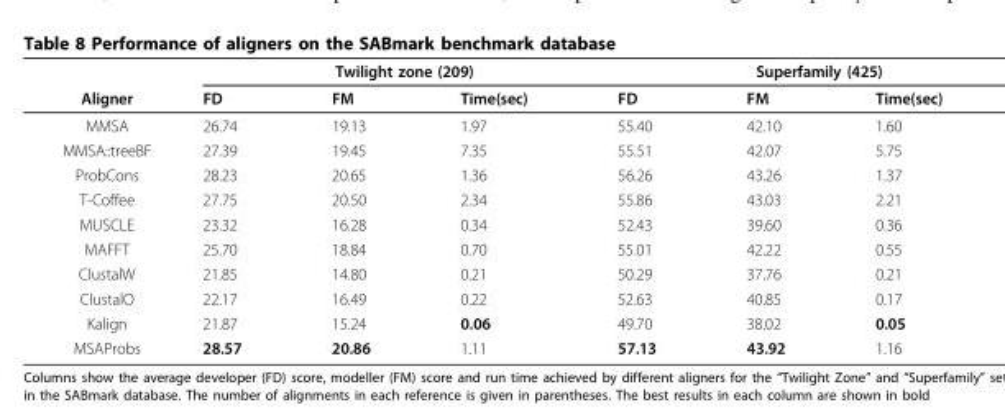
<table><thead><tr><td rowspan="2">Aligner</td><td colspan="3">Twilight zone (209)</td><td colspan="3">Superfamily (425)</td></tr><tr><td>FD</td><td>FM</td><td>Time(sec)</td><td>FD</td><td>FM</td><td>Time(sec)</td></tr></thead><tbody><tr><td>MMSA</td><td>26.74</td><td>19.13</td><td>1.97</td><td>55.40</td><td>42.10</td><td>1.60</td></tr><tr><td>MMSA::treeBF</td><td>27.39</td><td>19.45</td><td>7.35</td><td>55.51</td><td>42.07</td><td>5.75</td></tr><tr><td>ProbCons</td><td>28.23</td><td>20.65</td><td>1.36</td><td>56.26</td><td>43.26</td><td>1.37</td></tr><tr><td>T-Coffee</td><td>27.75</td><td>20.50</td><td>2.34</td><td>55.86</td><td>43.03</td><td>2.21</td></tr><tr><td>MUSCLE</td><td>23.32</td><td>16.28</td><td>0.34</td><td>52.43</td><td>39.60</td><td>0.36</td></tr><tr><td>MAFFT</td><td>25.70</td><td>18.84</td><td>0.70</td><td>55.01</td><td>42.22</td><td>0.55</td></tr><tr><td>ClustalW</td><td>21.85</td><td>14.80</td><td>0.21</td><td>50.29</td><td>37.76</td><td>0.21</td></tr><tr><td>ClustalO</td><td>22.17</td><td>16.49</td><td>0.22</td><td>52.63</td><td>40.85</td><td>0.17</td></tr><tr><td>Kalign</td><td>21.87</td><td>15.24</td><td>0.06</td><td>49.70</td><td>38.02</td><td>0.05</td></tr><tr><td>MSAProbs</td><td>28.57</td><td>20.86</td><td>1.11</td><td>57.13</td><td>43.92</td><td>1.16</td></tr></tbody></table>